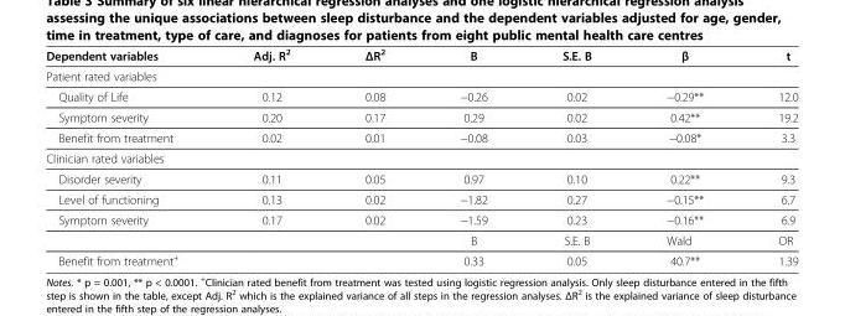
<table><thead><tr><td>Dependent variables</td><td>Adj. R<sup>2</sup></td><td>ΔR<sup>2</sup></td><td>B</td><td>S.E. B</td><td>β</td><td>t</td></tr></thead><tbody><tr><td colspan="7">Patient rated variables</td></tr><tr><td>Quality of Life</td><td>0.12</td><td>0.08</td><td>−0.26</td><td>0.02</td><td>−0.29**</td><td>12.0</td></tr><tr><td>Symptom severity</td><td>0.20</td><td>0.17</td><td>0.29</td><td>0.02</td><td>0.42**</td><td>19.2</td></tr><tr><td>Benefit from treatment</td><td>0.02</td><td>0.01</td><td>−0.08</td><td>0.03</td><td>−0.08*</td><td>3.3</td></tr><tr><td colspan="7">Clinician rated variables</td></tr><tr><td>Disorder severity</td><td>0.11</td><td>0.05</td><td>0.97</td><td>0.10</td><td>0.22**</td><td>9.3</td></tr><tr><td>Level of functioning</td><td>0.13</td><td>0.02</td><td>−1.82</td><td>0.27</td><td>−0.15**</td><td>6.7</td></tr><tr><td rowspan="2">Symptom severity</td><td>0.17</td><td>0.02</td><td>−1.59</td><td>0.23</td><td>−0.16**</td><td>6.9</td></tr><tr><td></td><td></td><td>B</td><td>S.E. B</td><td>Wald</td><td>OR</td></tr><tr><td>Benefit from treatment<sup>+</sup></td><td></td><td></td><td>0.33</td><td>0.05</td><td>40.7**</td><td>1.39</td></tr></tbody></table>